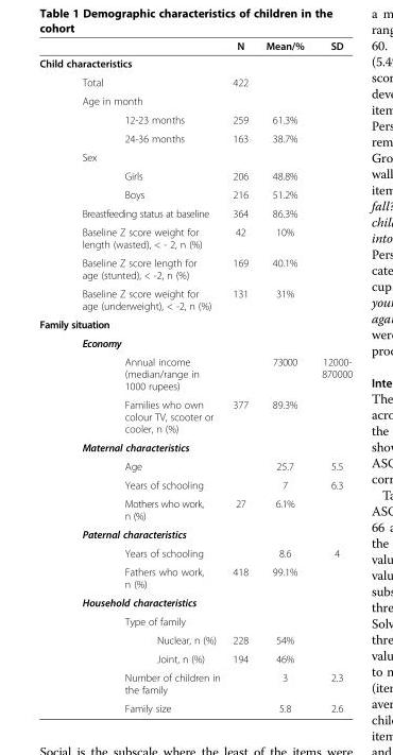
<table><thead><tr><td></td><td>N</td><td>Mean/%</td><td>SD</td></tr></thead><tbody><tr><td colspan="4">Child characteristics</td></tr><tr><td>Total</td><td>422</td><td></td><td></td></tr><tr><td colspan="4">Age in month</td></tr><tr><td>12-23 months</td><td>259</td><td>61.3%</td><td></td></tr><tr><td>24-36 months</td><td>163</td><td>38.7%</td><td></td></tr><tr><td colspan="4">Sex</td></tr><tr><td>Girls</td><td>206</td><td>48.8%</td><td></td></tr><tr><td>Boys</td><td>216</td><td>51.2%</td><td></td></tr><tr><td>Breastfeeding status at baseline</td><td>364</td><td>86.3%</td><td></td></tr><tr><td>Baseline Z score weight for length (wasted), &lt; - 2, n (%)</td><td>42</td><td>10%</td><td></td></tr><tr><td>Baseline Z score length for age (stunted), &lt; -2, n (%)</td><td>169</td><td>40.1%</td><td></td></tr><tr><td>Baseline Z score weight for age (underweight), &lt; -2, n (%)</td><td>131</td><td>31%</td><td></td></tr><tr><td colspan="4">Family situation</td></tr><tr><td colspan="4">Economy</td></tr><tr><td>Annual income (median/range in 1000 rupees)</td><td></td><td>73000</td><td>12000- 870000</td></tr><tr><td>Families who own colour TV, scooter or cooler, n (%)</td><td>377</td><td>89.3%</td><td></td></tr><tr><td colspan="4">Maternal characteristics</td></tr><tr><td>Age</td><td></td><td>25.7</td><td>5.5</td></tr><tr><td>Years of schooling</td><td></td><td>7</td><td>6.3</td></tr><tr><td>Mothers who work, n (%)</td><td>27</td><td>6.1%</td><td></td></tr><tr><td colspan="4">Paternal characteristics</td></tr><tr><td>Years of schooling</td><td></td><td>8.6</td><td>4</td></tr><tr><td>Fathers who work, n (%)</td><td>418</td><td>99.1%</td><td></td></tr><tr><td colspan="4">Household characteristics</td></tr><tr><td colspan="4">Type of family</td></tr><tr><td>Nuclear, n (%)</td><td>228</td><td>54%</td><td></td></tr><tr><td>Joint, n (%)</td><td>194</td><td>46%</td><td></td></tr><tr><td>Number of children in the family</td><td></td><td>3</td><td>2.3</td></tr><tr><td>Family size</td><td></td><td>5.8</td><td>2.6</td></tr></tbody></table>